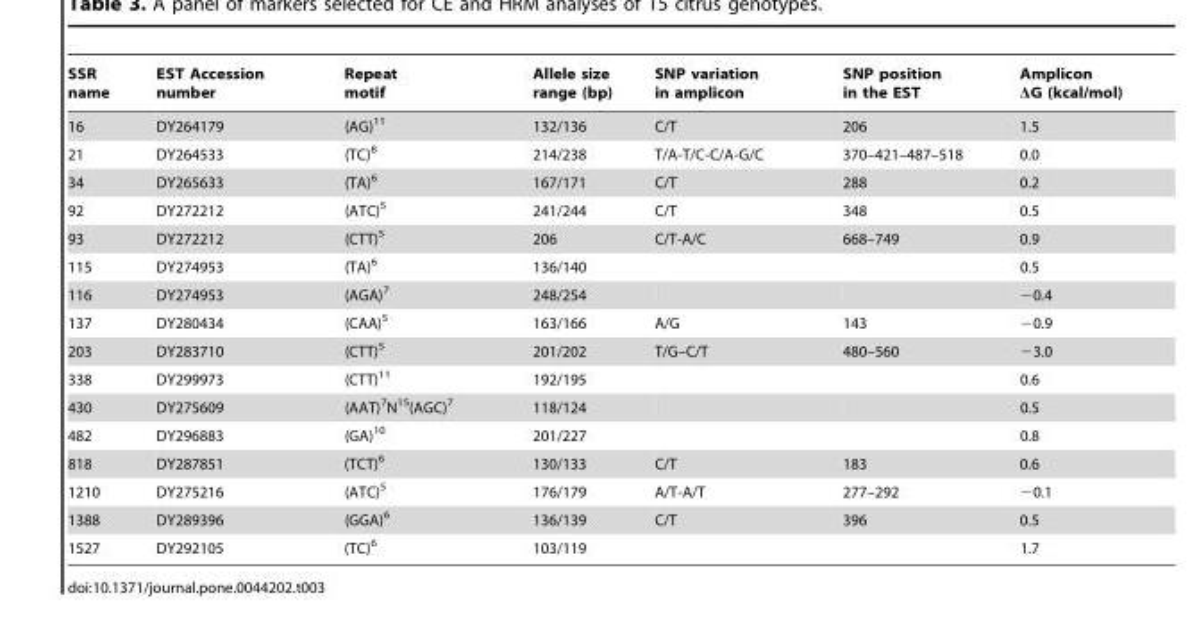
<table><thead><tr><td>SSR name</td><td>EST Accession number</td><td>Repeat motif</td><td>Allele size range (bp)</td><td>SNP variation in amplicon</td><td>SNP position in the EST</td><td>Amplicon ΔG (kcal/mol)</td></tr></thead><tbody><tr><td>16</td><td>DY264179</td><td>(AG)<sup>11</sup></td><td>132/136</td><td>C/T</td><td>206</td><td>1.5</td></tr><tr><td>21</td><td>DY264533</td><td>(TC)<sup>8</sup></td><td>214/238</td><td>T/A-T/C-C/A-G/C</td><td>370–421–487–518</td><td>0.0</td></tr><tr><td>34</td><td>DY265633</td><td>(TA)<sup>6</sup></td><td>167/171</td><td>C/T</td><td>288</td><td>0.2</td></tr><tr><td>92</td><td>DY272212</td><td>(ATC)<sup>5</sup></td><td>241/244</td><td>C/T</td><td>348</td><td>0.5</td></tr><tr><td>93</td><td>DY272212</td><td>(CTT)<sup>5</sup></td><td>206</td><td>C/T-A/C</td><td>668–749</td><td>0.9</td></tr><tr><td>115</td><td>DY274953</td><td>(TA)<sup>6</sup></td><td>136/140</td><td></td><td></td><td>0.5</td></tr><tr><td>116</td><td>DY274953</td><td>(AGA)<sup>7</sup></td><td>248/254</td><td></td><td></td><td>−0.4</td></tr><tr><td>137</td><td>DY280434</td><td>(CAA)<sup>5</sup></td><td>163/166</td><td>A/G</td><td>143</td><td>−0.9</td></tr><tr><td>203</td><td>DY283710</td><td>(CTT)<sup>5</sup></td><td>201/202</td><td>T/G–C/T</td><td>480–560</td><td>−3.0</td></tr><tr><td>338</td><td>DY299973</td><td>(CTT)<sup>11</sup></td><td>192/195</td><td></td><td></td><td>0.6</td></tr><tr><td>430</td><td>DY275609</td><td>(AAT)<sup>7</sup>N<sup>15</sup>(AGC)<sup>7</sup></td><td>118/124</td><td></td><td></td><td>0.5</td></tr><tr><td>482</td><td>DY296883</td><td>(GA)<sup>10</sup></td><td>201/227</td><td></td><td></td><td>0.8</td></tr><tr><td>818</td><td>DY287851</td><td>(TCT)<sup>6</sup></td><td>130/133</td><td>C/T</td><td>183</td><td>0.6</td></tr><tr><td>1210</td><td>DY275216</td><td>(ATC)<sup>5</sup></td><td>176/179</td><td>A/T-A/T</td><td>277–292</td><td>−0.1</td></tr><tr><td>1388</td><td>DY289396</td><td>(GGA)<sup>6</sup></td><td>136/139</td><td>C/T</td><td>396</td><td>0.5</td></tr><tr><td>1527</td><td>DY292105</td><td>(TC)<sup>6</sup></td><td>103/119</td><td></td><td></td><td>1.7</td></tr></tbody></table>